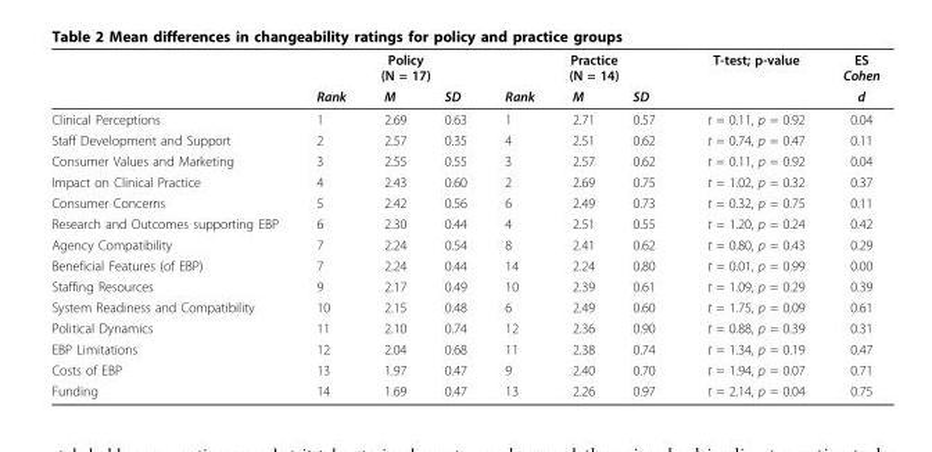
<table><thead><tr><td rowspan="2"></td><td colspan="3">Policy (N = 17)</td><td colspan="3">Practice (N = 14)</td><td rowspan="2">T-test; p-value</td><td rowspan="2">ES Cohen d</td></tr><tr><td>Rank</td><td>M</td><td>SD</td><td>Rank</td><td>M</td><td>SD</td></tr></thead><tbody><tr><td>Clinical Perceptions</td><td>1</td><td>2.69</td><td>0.63</td><td>1</td><td>2.71</td><td>0.57</td><td>t = 0.11, p = 0.92</td><td>0.04</td></tr><tr><td>Staff Development and Support</td><td>2</td><td>2.57</td><td>0.35</td><td>4</td><td>2.51</td><td>0.62</td><td>t = 0.74, p = 0.47</td><td>0.11</td></tr><tr><td>Consumer Values and Marketing</td><td>3</td><td>2.55</td><td>0.55</td><td>3</td><td>2.57</td><td>0.62</td><td>t = 0.11, p = 0.92</td><td>0.04</td></tr><tr><td>Impact on Clinical Practice</td><td>4</td><td>2.43</td><td>0.60</td><td>2</td><td>2.69</td><td>0.75</td><td>t = 1.02, p = 0.32</td><td>0.37</td></tr><tr><td>Consumer Concerns</td><td>5</td><td>2.42</td><td>0.56</td><td>6</td><td>2.49</td><td>0.73</td><td>t = 0.32, p = 0.75</td><td>0.11</td></tr><tr><td>Research and Outcomes supporting EBP</td><td>6</td><td>2.30</td><td>0.44</td><td>4</td><td>2.51</td><td>0.55</td><td>t = 1.20, p = 0.24</td><td>0.42</td></tr><tr><td>Agency Compatibility</td><td>7</td><td>2.24</td><td>0.54</td><td>8</td><td>2.41</td><td>0.62</td><td>t = 0.80, p = 0.43</td><td>0.29</td></tr><tr><td>Beneficial Features (of EBP)</td><td>7</td><td>2.24</td><td>0.44</td><td>14</td><td>2.24</td><td>0.80</td><td>t = 0.01, p = 0.99</td><td>0.00</td></tr><tr><td>Staffing Resources</td><td>9</td><td>2.17</td><td>0.49</td><td>10</td><td>2.39</td><td>0.61</td><td>t = 1.09, p = 0.29</td><td>0.39</td></tr><tr><td>System Readiness and Compatibility</td><td>10</td><td>2.15</td><td>0.48</td><td>6</td><td>2.49</td><td>0.60</td><td>t = 1.75, p = 0.09</td><td>0.61</td></tr><tr><td>Political Dynamics</td><td>11</td><td>2.10</td><td>0.74</td><td>12</td><td>2.36</td><td>0.90</td><td>t = 0.88, p = 0.39</td><td>0.31</td></tr><tr><td>EBP Limitations</td><td>12</td><td>2.04</td><td>0.68</td><td>11</td><td>2.38</td><td>0.74</td><td>t = 1.34, p = 0.19</td><td>0.47</td></tr><tr><td>Costs of EBP</td><td>13</td><td>1.97</td><td>0.47</td><td>9</td><td>2.40</td><td>0.70</td><td>t = 1.94, p = 0.07</td><td>0.71</td></tr><tr><td>Funding</td><td>14</td><td>1.69</td><td>0.47</td><td>13</td><td>2.26</td><td>0.97</td><td>t = 2.14, p = 0.04</td><td>0.75</td></tr></tbody></table>